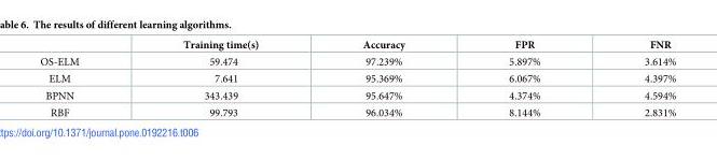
<table><thead><tr><td></td><td>Training time(s)</td><td>Accuracy</td><td>FPR</td><td>FNR</td></tr></thead><tbody><tr><td>OS-ELM</td><td>59.474</td><td>97.239%</td><td>5.897%</td><td>3.614%</td></tr><tr><td>ELM</td><td>7.641</td><td>95.369%</td><td>6.067%</td><td>4.397%</td></tr><tr><td>BPNN</td><td>343.439</td><td>95.647%</td><td>4.374%</td><td>4.594%</td></tr><tr><td>RBF</td><td>99.793</td><td>96.034%</td><td>8.144%</td><td>2.831%</td></tr></tbody></table>